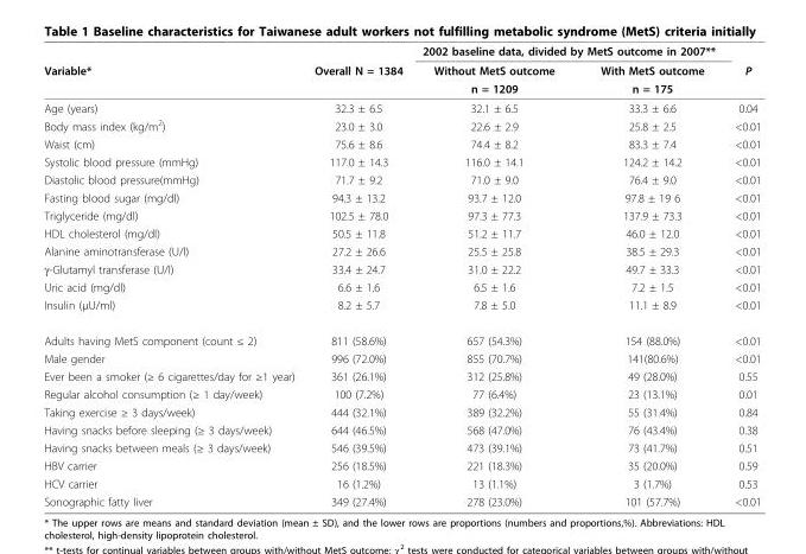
<table><thead><tr><td rowspan="3">Variable*</td><td rowspan="3">Overall N = 1384</td><td colspan="2">2002 baseline data, divided by MetS outcome in 2007**</td><td rowspan="3">P</td></tr><tr><td rowspan="2">Without MetS outcome n = 1209</td><td rowspan="2">With MetS outcome n = 175</td></tr><tr></tr></thead><tbody><tr><td>Age (years)</td><td>32.3 ± 6.5</td><td>32.1 ± 6.5</td><td>33.3 ± 6.6</td><td>0.04</td></tr><tr><td>Body mass index (kg/m<sup>2</sup>)</td><td>23.0 ± 3.0</td><td>22.6 ± 2.9</td><td>25.8 ± 2.5</td><td>&lt;0.01</td></tr><tr><td>Waist (cm)</td><td>75.6 ± 8.6</td><td>74.4 ± 8.2</td><td>83.3 ± 7.4</td><td>&lt;0.01</td></tr><tr><td>Systolic blood pressure (mmHg)</td><td>117.0 ± 14.3</td><td>116.0 ± 14.1</td><td>124.2 ± 14.2</td><td>&lt;0.01</td></tr><tr><td>Diastolic blood pressure(mmHg)</td><td>71.7 ± 9.2</td><td>71.0 ± 9.0</td><td>76.4 ± 9.0</td><td>&lt;0.01</td></tr><tr><td>Fasting blood sugar (mg/dl)</td><td>94.3 ± 13.2</td><td>93.7 ± 12.0</td><td>97.8 ± 19 6</td><td>&lt;0.01</td></tr><tr><td>Triglyceride (mg/dl)</td><td>102.5 ± 78.0</td><td>97.3 ± 77.3</td><td>137.9 ± 73.3</td><td>&lt;0.01</td></tr><tr><td>HDL cholesterol (mg/dl)</td><td>50.5 ± 11.8</td><td>51.2 ± 11.7</td><td>46.0 ± 12.0</td><td>&lt;0.01</td></tr><tr><td>Alanine aminotransferase (U/l)</td><td>27.2 ± 26.6</td><td>25.5 ± 25.8</td><td>38.5 ± 29.3</td><td>&lt;0.01</td></tr><tr><td>γ-Glutamyl transferase (U/l)</td><td>33.4 ± 24.7</td><td>31.0 ± 22.2</td><td>49.7 ± 33.3</td><td>&lt;0.01</td></tr><tr><td>Uric acid (mg/dl)</td><td>6.6 ± 1.6</td><td>6.5 ± 1.6</td><td>7.2 ± 1.5</td><td>&lt;0.01</td></tr><tr><td>Insulin (μU/ml)</td><td>8.2 ± 5.7</td><td>7.8 ± 5.0</td><td>11.1 ± 8.9</td><td>&lt;0.01</td></tr><tr><td>Adults having MetS component (count ≤ 2)</td><td>811 (58.6%)</td><td>657 (54.3%)</td><td>154 (88.0%)</td><td>&lt;0.01</td></tr><tr><td>Male gender</td><td>996 (72.0%)</td><td>855 (70.7%)</td><td>141(80.6%)</td><td>&lt;0.01</td></tr><tr><td>Ever been a smoker (≥ 6 cigarettes/day for ≥1 year)</td><td>361 (26.1%)</td><td>312 (25.8%)</td><td>49 (28.0%)</td><td>0.55</td></tr><tr><td>Regular alcohol consumption (≥ 1 day/week)</td><td>100 (7.2%)</td><td>77 (6.4%)</td><td>23 (13.1%)</td><td>0.01</td></tr><tr><td>Taking exercise ≥ 3 days/week)</td><td>444 (32.1%)</td><td>389 (32.2%)</td><td>55 (31.4%)</td><td>0.84</td></tr><tr><td>Having snacks before sleeping (≥ 3 days/week)</td><td>644 (46.5%)</td><td>568 (47.0%)</td><td>76 (43.4%)</td><td>0.38</td></tr><tr><td>Having snacks between meals (≥ 3 days/week)</td><td>546 (39.5%)</td><td>473 (39.1%)</td><td>73 (41.7%)</td><td>0.51</td></tr><tr><td>HBV carrier</td><td>256 (18.5%)</td><td>221 (18.3%)</td><td>35 (20.0%)</td><td>0.59</td></tr><tr><td>HCV carrier</td><td>16 (1.2%)</td><td>13 (1.1%)</td><td>3 (1.7%)</td><td>0.53</td></tr><tr><td>Sonographic fatty liver</td><td>349 (27.4%)</td><td>278 (23.0%)</td><td>101 (57.7%)</td><td>&lt;0.01</td></tr></tbody></table>